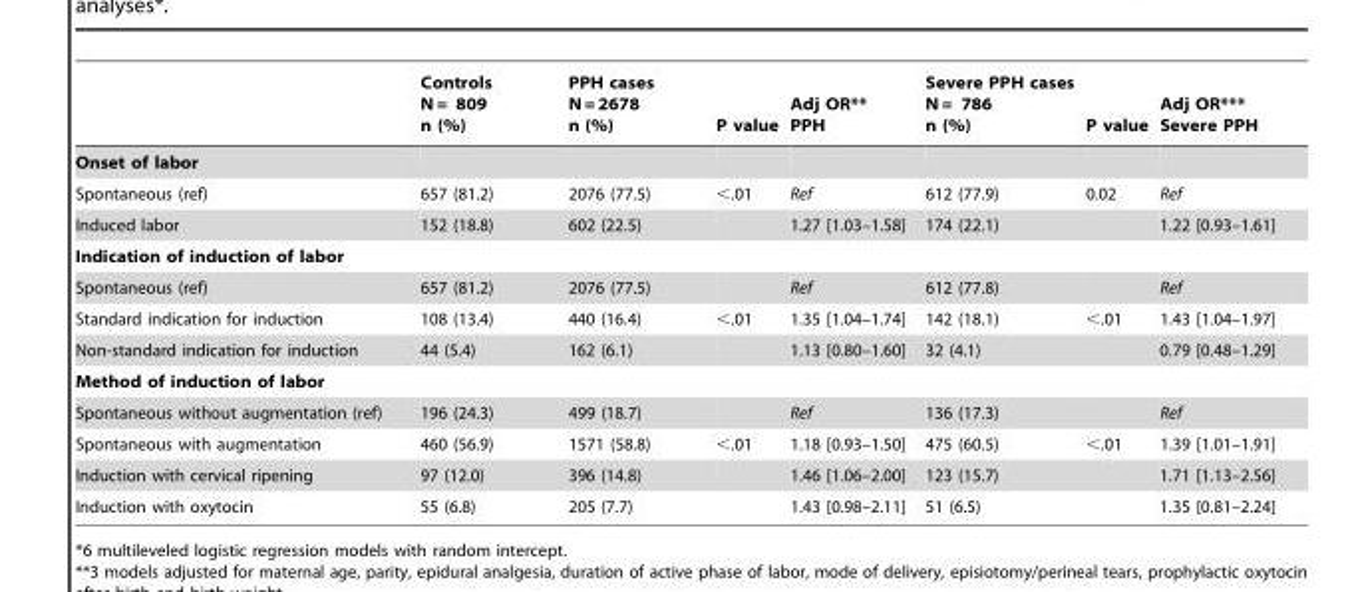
<table><thead><tr><td></td><td>Controls N = 809 n (%)</td><td>PPH cases N = 2678 n (%)</td><td>P value</td><td>Adj OR** PPH</td><td>Severe PPH cases N = 786 n (%)</td><td>P value</td><td>Adj OR*** Severe PPH</td></tr></thead><tbody><tr><td colspan="8">Onset of labor</td></tr><tr><td>Spontaneous (ref)</td><td>657 (81.2)</td><td>2076 (77.5)</td><td>&lt;.01</td><td>Ref</td><td>612 (77.9)</td><td>0.02</td><td>Ref</td></tr><tr><td>Induced labor</td><td>152 (18.8)</td><td>602 (22.5)</td><td></td><td>1.27 [1.03–1.58]</td><td>174 (22.1)</td><td></td><td>1.22 [0.93–1.61]</td></tr><tr><td colspan="8">Indication of induction of labor</td></tr><tr><td>Spontaneous (ref)</td><td>657 (81.2)</td><td>2076 (77.5)</td><td></td><td>Ref</td><td>612 (77.8)</td><td></td><td>Ref</td></tr><tr><td>Standard indication for induction</td><td>108 (13.4)</td><td>440 (16.4)</td><td>&lt;.01</td><td>1.35 [1.04–1.74]</td><td>142 (18.1)</td><td>&lt;.01</td><td>1.43 [1.04–1.97]</td></tr><tr><td>Non-standard indication for induction</td><td>44 (5.4)</td><td>162 (6.1)</td><td></td><td>1.13 [0.80–1.60]</td><td>32 (4.1)</td><td></td><td>0.79 [0.48–1.29]</td></tr><tr><td colspan="8">Method of induction of labor</td></tr><tr><td>Spontaneous without augmentation (ref)</td><td>196 (24.3)</td><td>499 (18.7)</td><td></td><td>Ref</td><td>136 (17.3)</td><td></td><td>Ref</td></tr><tr><td>Spontaneous with augmentation</td><td>460 (56.9)</td><td>1571 (58.8)</td><td>&lt;.01</td><td>1.18 [0.93–1.50]</td><td>475 (60.5)</td><td>&lt;.01</td><td>1.39 [1.01–1.91]</td></tr><tr><td>Induction with cervical ripening</td><td>97 (12.0)</td><td>396 (14.8)</td><td></td><td>1.46 [1.06–2.00]</td><td>123 (15.7)</td><td></td><td>1.71 [1.13–2.56]</td></tr><tr><td>Induction with oxytocin</td><td>55 (6.8)</td><td>205 (7.7)</td><td></td><td>1.43 [0.98–2.11]</td><td>51 (6.5)</td><td></td><td>1.35 [0.81–2.24]</td></tr></tbody></table>